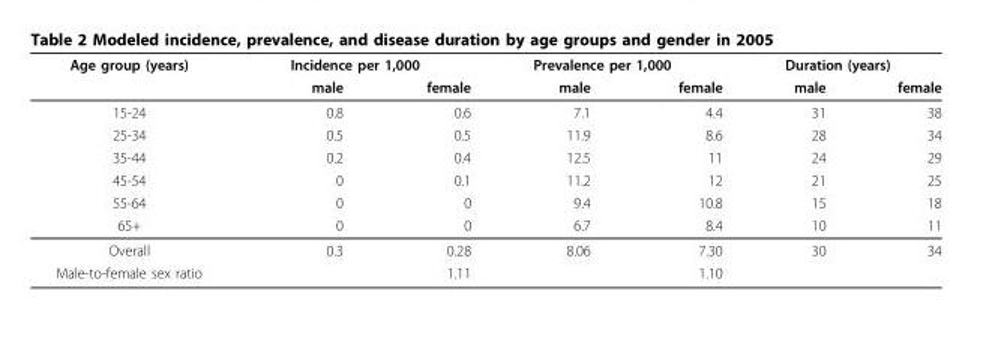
<table><thead><tr><td rowspan="2">Age group (years)</td><td colspan="2">Incidence per 1,000</td><td colspan="2">Prevalence per 1,000</td><td colspan="2">Duration (years)</td></tr><tr><td>male</td><td>female</td><td>male</td><td>female</td><td>male</td><td>female</td></tr></thead><tbody><tr><td>15-24</td><td>0.8</td><td>0.6</td><td>7.1</td><td>4.4</td><td>31</td><td>38</td></tr><tr><td>25-34</td><td>0.5</td><td>0.5</td><td>11.9</td><td>8.6</td><td>28</td><td>34</td></tr><tr><td>35-44</td><td>0.2</td><td>0.4</td><td>12.5</td><td>11</td><td>24</td><td>29</td></tr><tr><td>45-54</td><td>0</td><td>0.1</td><td>11.2</td><td>12</td><td>21</td><td>25</td></tr><tr><td>55-64</td><td>0</td><td>0</td><td>9.4</td><td>10.8</td><td>15</td><td>18</td></tr><tr><td>65+</td><td>0</td><td>0</td><td>6.7</td><td>8.4</td><td>10</td><td>11</td></tr><tr><td>Overall</td><td>0.3</td><td>0.28</td><td>8.06</td><td>7.30</td><td>30</td><td>34</td></tr><tr><td>Male-to-female sex ratio</td><td></td><td>1.11</td><td></td><td>1.10</td><td></td><td></td></tr></tbody></table>